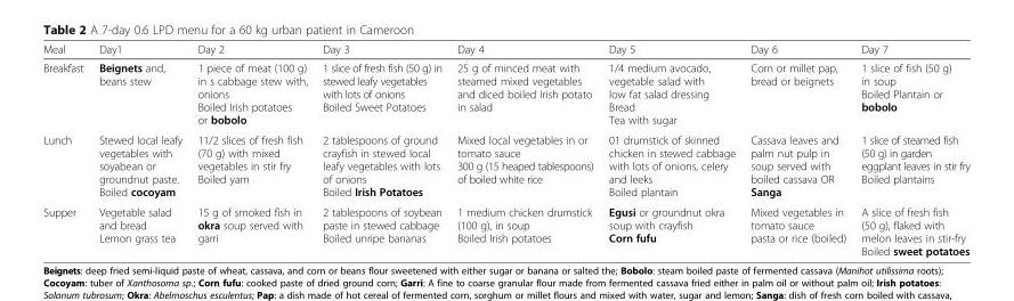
<table><thead><tr><td>Meal</td><td>Day1</td><td>Day 2</td><td>Day 3</td><td>Day 4</td><td>Day 5</td><td>Day 6</td><td>Day 7</td></tr></thead><tbody><tr><td>Breakfast</td><td>Beignets and, beans stew</td><td>1 piece of meat (100 g) in s cabbage stew with, onions Boiled Irish potatoes or bobolo</td><td>1 slice of fresh fish (50 g) in stewed leafy vegetables with lots of onions Boiled Sweet Potatoes</td><td>25 g of minced meat with steamed mixed vegetables and diced boiled Irish potato in salad</td><td>1/4 medium avocado, vegetable salad with low fat salad dressing Bread Tea with sugar</td><td>Corn or millet pap, bread or beignets</td><td>1 slice of fish (50 g) in soup Boiled Plantain or bobolo</td></tr><tr><td>Lunch</td><td>Stewed local leafy vegetables with soyabean or groundnut paste. Boiled cocoyam</td><td>11/2 slices of fresh fish (70 g) with mixed vegetables in stir fry Boiled yam</td><td>2 tablespoons of ground crayfish in stewed local leafy vegetables with lots of onions Boiled Irish Potatoes</td><td>Mixed local vegetables in or tomato sauce 300 g (15 heaped tablespoons) of boiled white rice</td><td>01 drumstick of skinned chicken in stewed cabbage with lots of onions, celery and leeks Boiled plantain</td><td>Cassava leaves and palm nut pulp in soup served with boiled cassava OR Sanga</td><td>1 slice of steamed fish (50 g) in garden eggplant leaves in stir fry Boiled plantains</td></tr><tr><td>Supper</td><td>Vegetable salad and bread Lemon grass tea</td><td>15 g of smoked fish in okra soup served with garri</td><td>2 tablespoons of soybean paste in stewed cabbage Boiled unripe bananas</td><td>1 medium chicken drumstick (100 g), in soup Boiled Irish potatoes</td><td>Egusi or groundnut okra soup with crayfish Corn fufu</td><td>Mixed vegetables in tomato sauce pasta or rice (boiled)</td><td>A slice of fresh fish (50 g), flaked with melon leaves in stir-fry Boiled sweet potatoes</td></tr></tbody></table>